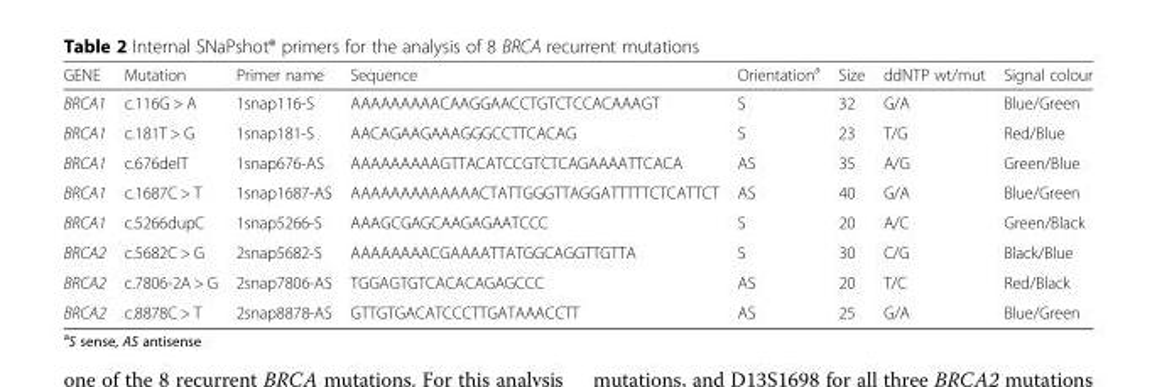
<table><thead><tr><td>GENE</td><td>Mutation</td><td>Primer name</td><td>Sequence</td><td>Orientation<sup>a</sup></td><td>Size</td><td>ddNTP wt/mut</td><td>Signal colour</td></tr></thead><tbody><tr><td>BRCA1</td><td>c.116G &gt; A</td><td>1snap116-S</td><td>AAAAAAAAACAAGGAACCTGTCTCCACAAAGT</td><td>S</td><td>32</td><td>G/A</td><td>Blue/Green</td></tr><tr><td>BRCA1</td><td>c.181T &gt; G</td><td>1snap181-S</td><td>AACAGAAGAAAGGGCCTTCACAG</td><td>S</td><td>23</td><td>T/G</td><td>Red/Blue</td></tr><tr><td>BRCA1</td><td>c.676delT</td><td>1snap676-AS</td><td>AAAAAAAAAGTTACATCCGTCTCAGAAAATTCACA</td><td>AS</td><td>35</td><td>A/G</td><td>Green/Blue</td></tr><tr><td>BRCA1</td><td>c.1687C &gt; T</td><td>1snap1687-AS</td><td>AAAAAAAAAAAAACTATTGGGTTAGGATTTTTCTCATTCT</td><td>AS</td><td>40</td><td>G/A</td><td>Blue/Green</td></tr><tr><td>BRCA1</td><td>c.5266dupC</td><td>1snap5266-S</td><td>AAAGCGAGCAAGAGAATCCC</td><td>S</td><td>20</td><td>A/C</td><td>Green/Black</td></tr><tr><td>BRCA2</td><td>c.5682C &gt; G</td><td>2snap5682-S</td><td>AAAAAAAACGAAAATTATGGCAGGTTGTTA</td><td>S</td><td>30</td><td>C/G</td><td>Black/Blue</td></tr><tr><td>BRCA2</td><td>c.7806-2A &gt; G</td><td>2snap7806-AS</td><td>TGGAGTGTCACACAGAGCCC</td><td>AS</td><td>20</td><td>T/C</td><td>Red/Black</td></tr><tr><td>BRCA2</td><td>c.8878C &gt; T</td><td>2snap8878-AS</td><td>GTTGTGACATCCCTTGATAAACCTT</td><td>AS</td><td>25</td><td>G/A</td><td>Blue/Green</td></tr></tbody></table>